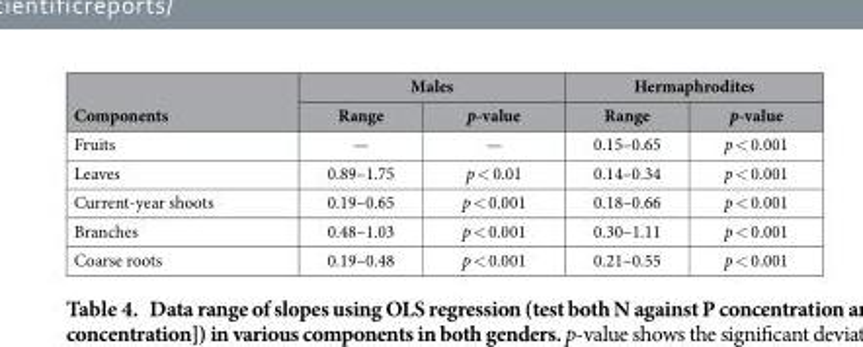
<table><thead><tr><td rowspan="2">Components</td><td colspan="2">Males</td><td colspan="2">Hermaphrodites</td></tr><tr><td>Range</td><td>p-value</td><td>Range</td><td>p-value</td></tr></thead><tbody><tr><td>Fruits</td><td>—</td><td>—</td><td>0.15–0.65</td><td>p &lt; 0.001</td></tr><tr><td>Leaves</td><td>0.89–1.75</td><td>p &lt; 0.01</td><td>0.14–0.34</td><td>p &lt; 0.001</td></tr><tr><td>Current-year shoots</td><td>0.19–0.65</td><td>p &lt; 0.001</td><td>0.18–0.66</td><td>p &lt; 0.001</td></tr><tr><td>Branches</td><td>0.48–1.03</td><td>p &lt; 0.001</td><td>0.30–1.11</td><td>p &lt; 0.001</td></tr><tr><td>Coarse roots</td><td>0.19–0.48</td><td>p &lt; 0.001</td><td>0.21–0.55</td><td>p &lt; 0.001</td></tr></tbody></table>